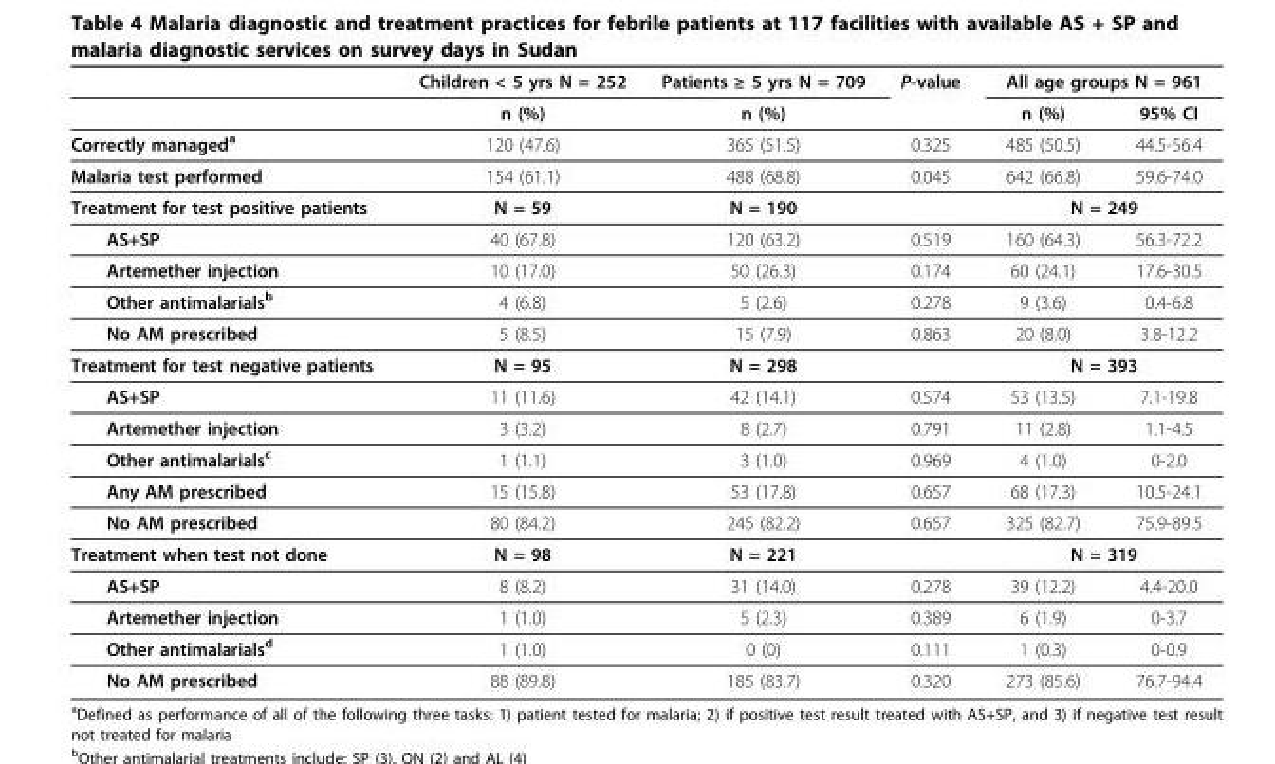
<table><thead><tr><td rowspan="2"></td><td rowspan="2">Children &lt; 5 yrs N = 252 n (%)</td><td rowspan="2">Patients ≥ 5 yrs N = 709 n (%)</td><td rowspan="2">P-value</td><td colspan="2">All age groups N = 961</td></tr><tr><td>n (%)</td><td>95% CI</td></tr></thead><tbody><tr><td>Correctly managed<sup>a</sup></td><td>120 (47.6)</td><td>365 (51.5)</td><td>0.325</td><td>485 (50.5)</td><td>44.5-56.4</td></tr><tr><td>Malaria test performed</td><td>154 (61.1)</td><td>488 (68.8)</td><td>0.045</td><td>642 (66.8)</td><td>59.6-74.0</td></tr><tr><td>Treatment for test positive patients</td><td>N = 59</td><td>N = 190</td><td></td><td colspan="2">N = 249</td></tr><tr><td>AS+SP</td><td>40 (67.8)</td><td>120 (63.2)</td><td>0.519</td><td>160 (64.3)</td><td>56.3-72.2</td></tr><tr><td>Artemether injection</td><td>10 (17.0)</td><td>50 (26.3)</td><td>0.174</td><td>60 (24.1)</td><td>17.6-30.5</td></tr><tr><td>Other antimalarials<sup>b</sup></td><td>4 (6.8)</td><td>5 (2.6)</td><td>0.278</td><td>9 (3.6)</td><td>0.4-6.8</td></tr><tr><td>No AM prescribed</td><td>5 (8.5)</td><td>15 (7.9)</td><td>0.863</td><td>20 (8.0)</td><td>3.8-12.2</td></tr><tr><td>Treatment for test negative patients</td><td>N = 95</td><td>N = 298</td><td></td><td colspan="2">N = 393</td></tr><tr><td>AS+SP</td><td>11 (11.6)</td><td>42 (14.1)</td><td>0.574</td><td>53 (13.5)</td><td>7.1-19.8</td></tr><tr><td>Artemether injection</td><td>3 (3.2)</td><td>8 (2.7)</td><td>0.791</td><td>11 (2.8)</td><td>1.1-4.5</td></tr><tr><td>Other antimalarials<sup>c</sup></td><td>1 (1.1)</td><td>3 (1.0)</td><td>0.969</td><td>4 (1.0)</td><td>0-2.0</td></tr><tr><td>Any AM prescribed</td><td>15 (15.8)</td><td>53 (17.8)</td><td>0.657</td><td>68 (17.3)</td><td>10.5-24.1</td></tr><tr><td>No AM prescribed</td><td>80 (84.2)</td><td>245 (82.2)</td><td>0.657</td><td>325 (82.7)</td><td>75.9-89.5</td></tr><tr><td>Treatment when test not done</td><td>N = 98</td><td>N = 221</td><td></td><td colspan="2">N = 319</td></tr><tr><td>AS+SP</td><td>8 (8.2)</td><td>31 (14.0)</td><td>0.278</td><td>39 (12.2)</td><td>4.4-20.0</td></tr><tr><td>Artemether injection</td><td>1 (1.0)</td><td>5 (2.3)</td><td>0.389</td><td>6 (1.9)</td><td>0-3.7</td></tr><tr><td>Other antimalarials<sup>d</sup></td><td>1 (1.0)</td><td>0 (0)</td><td>0.111</td><td>1 (0.3)</td><td>0-0.9</td></tr><tr><td>No AM prescribed</td><td>88 (89.8)</td><td>185 (83.7)</td><td>0.320</td><td>273 (85.6)</td><td>76.7-94.4</td></tr></tbody></table>